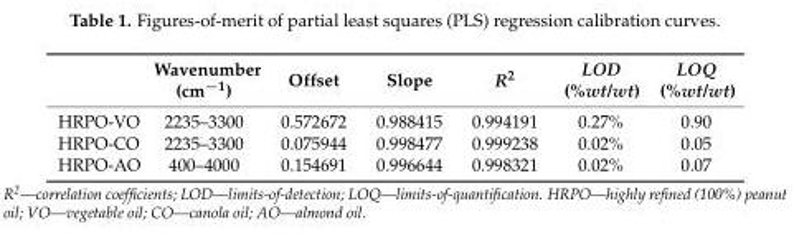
<table><thead><tr><td></td><td>Wavenumber (cm<sup>−1</sup>)</td><td>Offset</td><td>Slope</td><td>R<sup>2</sup></td><td>LOD (%wt/wt)</td><td>LOQ (%wt/wt)</td></tr></thead><tbody><tr><td>HRPO-VO</td><td>2235–3300</td><td>0.572672</td><td>0.988415</td><td>0.994191</td><td>0.27%</td><td>0.90</td></tr><tr><td>HRPO-CO</td><td>2235–3300</td><td>0.075944</td><td>0.998477</td><td>0.999238</td><td>0.02%</td><td>0.05</td></tr><tr><td>HRPO-AO</td><td>400–4000</td><td>0.154691</td><td>0.996644</td><td>0.998321</td><td>0.02%</td><td>0.07</td></tr></tbody></table>